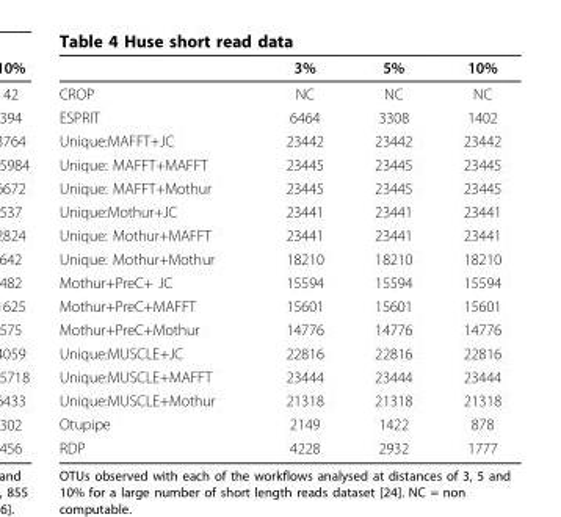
<table><thead><tr><td></td><td>3%</td><td>5%</td><td>10%</td></tr></thead><tbody><tr><td>CROP</td><td>NC</td><td>NC</td><td>NC</td></tr><tr><td>ESPRIT</td><td>6464</td><td>3308</td><td>1402</td></tr><tr><td>Unique:MAFFT+JC</td><td>23442</td><td>23442</td><td>23442</td></tr><tr><td>Unique: MAFFT+MAFFT</td><td>23445</td><td>23445</td><td>23445</td></tr><tr><td>Unique: MAFFT+Mothur</td><td>23445</td><td>23445</td><td>23445</td></tr><tr><td>Unique:Mothur+JC</td><td>23441</td><td>23441</td><td>23441</td></tr><tr><td>Unique: Mothur+MAFFT</td><td>23441</td><td>23441</td><td>23441</td></tr><tr><td>Unique: Mothur+Mothur</td><td>18210</td><td>18210</td><td>18210</td></tr><tr><td>Mothur+PreC+ JC</td><td>15594</td><td>15594</td><td>15594</td></tr><tr><td>Mothur+PreC+MAFFT</td><td>15601</td><td>15601</td><td>15601</td></tr><tr><td>Mothur+PreC+Mothur</td><td>14776</td><td>14776</td><td>14776</td></tr><tr><td>Unique:MUSCLE+JC</td><td>22816</td><td>22816</td><td>22816</td></tr><tr><td>Unique:MUSCLE+MAFFT</td><td>23444</td><td>23444</td><td>23444</td></tr><tr><td>Unique:MUSCLE+Mothur</td><td>21318</td><td>21318</td><td>21318</td></tr><tr><td>Otupipe</td><td>2149</td><td>1422</td><td>878</td></tr><tr><td>RDP</td><td>4228</td><td>2932</td><td>1777</td></tr></tbody></table>